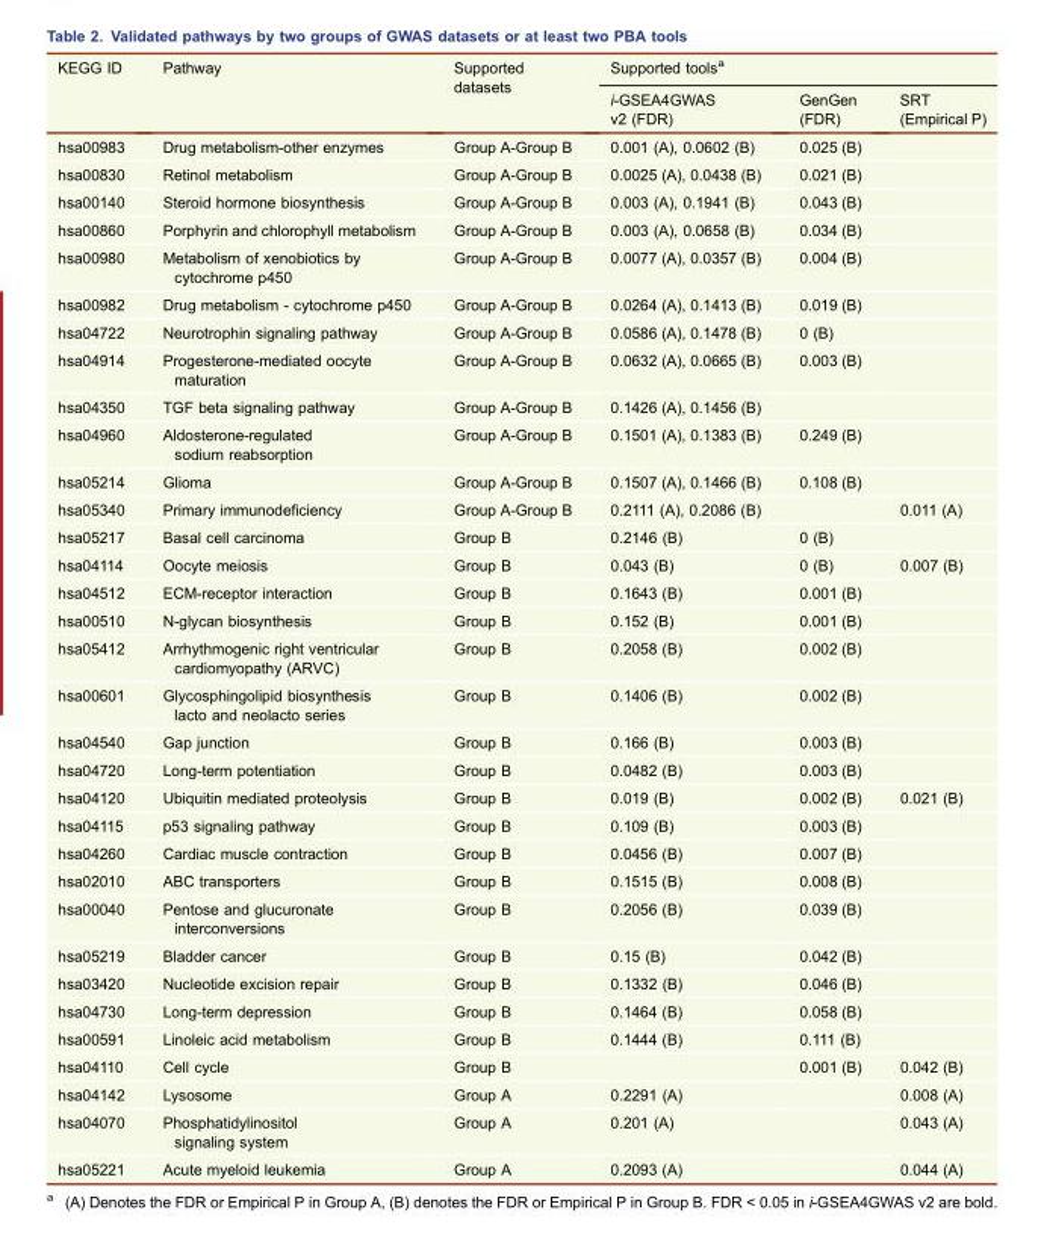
<table><thead><tr><td rowspan="2">KEGG ID</td><td rowspan="2">Pathway</td><td rowspan="2">Supported datasets</td><td colspan="3">Supported tools<sup>a</sup></td></tr><tr><td>i-GSEA4GWAS v2 (FDR)</td><td>GenGen (FDR)</td><td>SRT (Empirical P)</td></tr></thead><tbody><tr><td>hsa00983</td><td>Drug metabolism-other enzymes</td><td>Group A-Group B</td><td>0.001 (A), 0.0602 (B)</td><td>0.025 (B)</td><td></td></tr><tr><td>hsa00830</td><td>Retinol metabolism</td><td>Group A-Group B</td><td>0.0025 (A), 0.0438 (B)</td><td>0.021 (B)</td><td></td></tr><tr><td>hsa00140</td><td>Steroid hormone biosynthesis</td><td>Group A-Group B</td><td>0.003 (A), 0.1941 (B)</td><td>0.043 (B)</td><td></td></tr><tr><td>hsa00860</td><td>Porphyrin and chlorophyll metabolism</td><td>Group A-Group B</td><td>0.003 (A), 0.0658 (B)</td><td>0.034 (B)</td><td></td></tr><tr><td>hsa00980</td><td>Metabolism of xenobiotics by cytochrome p450</td><td>Group A-Group B</td><td>0.0077 (A), 0.0357 (B)</td><td>0.004 (B)</td><td></td></tr><tr><td>hsa00982</td><td>Drug metabolism - cytochrome p450</td><td>Group A-Group B</td><td>0.0264 (A), 0.1413 (B)</td><td>0.019 (B)</td><td></td></tr><tr><td>hsa04722</td><td>Neurotrophin signaling pathway</td><td>Group A-Group B</td><td>0.0586 (A), 0.1478 (B)</td><td>0 (B)</td><td></td></tr><tr><td>hsa04914</td><td>Progesterone-mediated oocyte maturation</td><td>Group A-Group B</td><td>0.0632 (A), 0.0665 (B)</td><td>0.003 (B)</td><td></td></tr><tr><td>hsa04350</td><td>TGF beta signaling pathway</td><td>Group A-Group B</td><td>0.1426 (A), 0.1456 (B)</td><td></td><td></td></tr><tr><td>hsa04960</td><td>Aldosterone-regulated sodium reabsorption</td><td>Group A-Group B</td><td>0.1501 (A), 0.1383 (B)</td><td>0.249 (B)</td><td></td></tr><tr><td>hsa05214</td><td>Glioma</td><td>Group A-Group B</td><td>0.1507 (A), 0.1466 (B)</td><td>0.108 (B)</td><td></td></tr><tr><td>hsa05340</td><td>Primary immunodeficiency</td><td>Group A-Group B</td><td>0.2111 (A), 0.2086 (B)</td><td></td><td>0.011 (A)</td></tr><tr><td>hsa05217</td><td>Basal cell carcinoma</td><td>Group B</td><td>0.2146 (B)</td><td>0 (B)</td><td></td></tr><tr><td>hsa04114</td><td>Oocyte meiosis</td><td>Group B</td><td>0.043 (B)</td><td>0 (B)</td><td>0.007 (B)</td></tr><tr><td>hsa04512</td><td>ECM-receptor interaction</td><td>Group B</td><td>0.1643 (B)</td><td>0.001 (B)</td><td></td></tr><tr><td>hsa00510</td><td>N-glycan biosynthesis</td><td>Group B</td><td>0.152 (B)</td><td>0.001 (B)</td><td></td></tr><tr><td>hsa05412</td><td>Arrhythmogenic right ventricular cardiomyopathy (ARVC)</td><td>Group B</td><td>0.2058 (B)</td><td>0.002 (B)</td><td></td></tr><tr><td>hsa00601</td><td>Glycosphingolipid biosynthesis lacto and neolacto series</td><td>Group B</td><td>0.1406 (B)</td><td>0.002 (B)</td><td></td></tr><tr><td>hsa04540</td><td>Gap junction</td><td>Group B</td><td>0.166 (B)</td><td>0.003 (B)</td><td></td></tr><tr><td>hsa04720</td><td>Long-term potentiation</td><td>Group B</td><td>0.0482 (B)</td><td>0.003 (B)</td><td></td></tr><tr><td>hsa04120</td><td>Ubiquitin mediated proteolysis</td><td>Group B</td><td>0.019 (B)</td><td>0.002 (B)</td><td>0.021 (B)</td></tr><tr><td>hsa04115</td><td>p53 signaling pathway</td><td>Group B</td><td>0.109 (B)</td><td>0.003 (B)</td><td></td></tr><tr><td>hsa04260</td><td>Cardiac muscle contraction</td><td>Group B</td><td>0.0456 (B)</td><td>0.007 (B)</td><td></td></tr><tr><td>hsa02010</td><td>ABC transporters</td><td>Group B</td><td>0.1515 (B)</td><td>0.008 (B)</td><td></td></tr><tr><td>hsa00040</td><td>Pentose and glucuronate interconversions</td><td>Group B</td><td>0.2056 (B)</td><td>0.039 (B)</td><td></td></tr><tr><td>hsa05219</td><td>Bladder cancer</td><td>Group B</td><td>0.15 (B)</td><td>0.042 (B)</td><td></td></tr><tr><td>hsa03420</td><td>Nucleotide excision repair</td><td>Group B</td><td>0.1332 (B)</td><td>0.046 (B)</td><td></td></tr><tr><td>hsa04730</td><td>Long-term depression</td><td>Group B</td><td>0.1464 (B)</td><td>0.058 (B)</td><td></td></tr><tr><td>hsa00591</td><td>Linoleic acid metabolism</td><td>Group B</td><td>0.1444 (B)</td><td>0.111 (B)</td><td></td></tr><tr><td>hsa04110</td><td>Cell cycle</td><td>Group B</td><td></td><td>0.001 (B)</td><td>0.042 (B)</td></tr><tr><td>hsa04142</td><td>Lysosome</td><td>Group A</td><td>0.2291 (A)</td><td></td><td>0.008 (A)</td></tr><tr><td>hsa04070</td><td>Phosphatidylinositol signaling system</td><td>Group A</td><td>0.201 (A)</td><td></td><td>0.043 (A)</td></tr><tr><td>hsa05221</td><td>Acute myeloid leukemia</td><td>Group A</td><td>0.2093 (A)</td><td></td><td>0.044 (A)</td></tr></tbody></table>